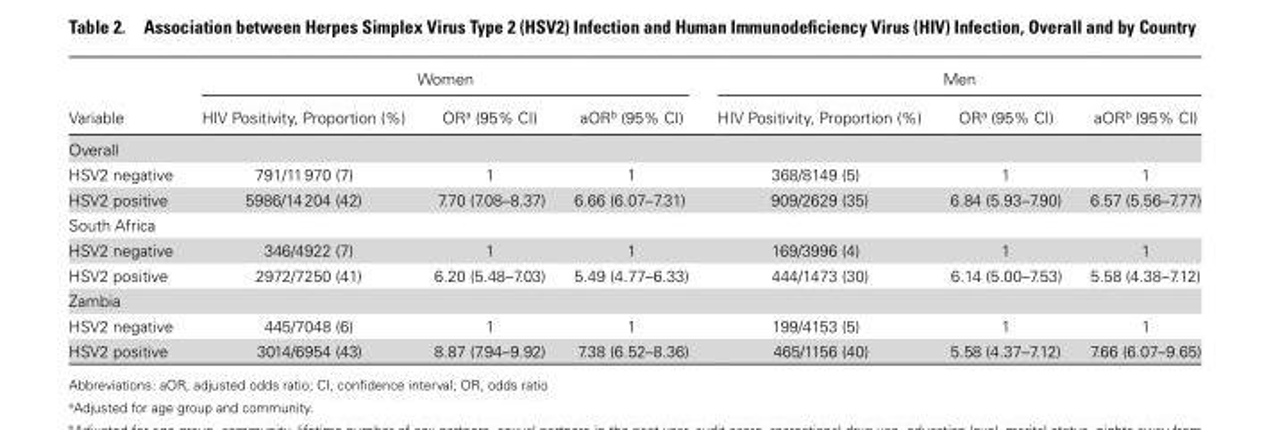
<table><thead><tr><td rowspan="2">Variable</td><td colspan="3">Women</td><td colspan="3">Men</td></tr><tr><td>HIV Positivity, Proportion (%)</td><td>OR<sup>a</sup> (95% CI)</td><td>aOR<sup>b</sup> (95% CI)</td><td>HIV Positivity, Proportion (%)</td><td>OR<sup>a</sup> (95% CI)</td><td>aOR<sup>b</sup> (95% CI)</td></tr></thead><tbody><tr><td colspan="7">Overall</td></tr><tr><td>HSV2 negative</td><td>791/11 970 (7)</td><td>1</td><td>1</td><td>368/8149 (5)</td><td>1</td><td>1</td></tr><tr><td>HSV2 positive</td><td>5986/14 204 (42)</td><td>7.70 (7.08–8.37)</td><td>6.66 (6.07–7.31)</td><td>909/2629 (35)</td><td>6.84 (5.93–7.90)</td><td>6.57 (5.56–7.77)</td></tr><tr><td colspan="7">South Africa</td></tr><tr><td>HSV2 negative</td><td>346/4922 (7)</td><td>1</td><td>1</td><td>169/3996 (4)</td><td>1</td><td>1</td></tr><tr><td>HSV2 positive</td><td>2972/7250 (41)</td><td>6.20 (5.48–7.03)</td><td>5.49 (4.77–6.33)</td><td>444/1473 (30)</td><td>6.14 (5.00–7.53)</td><td>5.58 (4.38–7.12)</td></tr><tr><td colspan="7">Zambia</td></tr><tr><td>HSV2 negative</td><td>445/7048 (6)</td><td>1</td><td>1</td><td>199/4153 (5)</td><td>1</td><td>1</td></tr><tr><td>HSV2 positive</td><td>3014/6954 (43)</td><td>8.87 (7.94–9.92)</td><td>7.38 (6.52–8.36)</td><td>465/1156 (40)</td><td>5.58 (4.37–7.12)</td><td>7.66 (6.07–9.65)</td></tr></tbody></table>